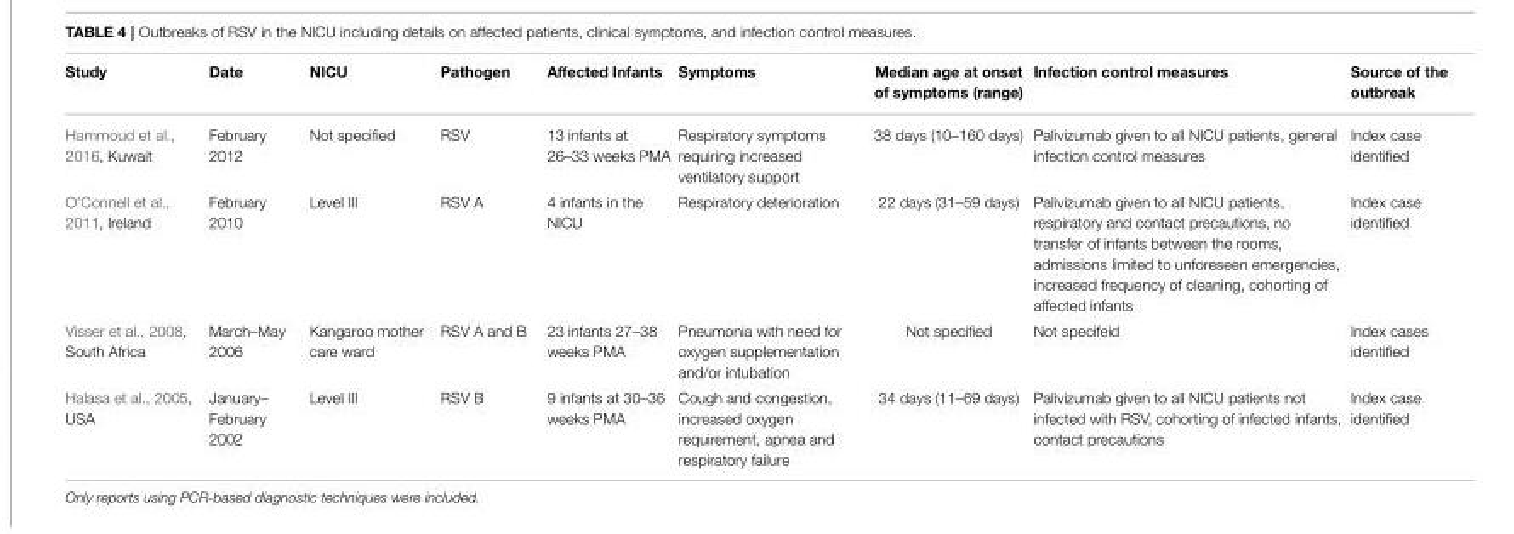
<table><thead><tr><td>Study</td><td>Date</td><td>NICU</td><td>Pathogen</td><td>Affected Infants</td><td>Symptoms</td><td>Median age at onset of symptoms (range)</td><td>Infection control measures</td><td>Source of the outbreak</td></tr></thead><tbody><tr><td>Hammoud et al., 2016, Kuwait</td><td>February 2012</td><td>Not specified</td><td>RSV</td><td>13 infants at 26–33 weeks PMA</td><td>Respiratory symptoms requiring increased ventilatory support</td><td>38 days (10–160 days)</td><td>Palivizumab given to all NICU patients, general infection control measures</td><td>Index case identified</td></tr><tr><td>O’Connell et al., 2011, Ireland</td><td>February 2010</td><td>Level III</td><td>RSV A</td><td>4 infants in the NICU</td><td>Respiratory deterioration</td><td>22 days (31–59 days)</td><td>Palivizumab given to all NICU patients, respiratory and contact precautions, no transfer of infants between the rooms, admissions limited to unforeseen emergencies, increased frequency of cleaning, cohorting of affected infants</td><td>Index case identified</td></tr><tr><td>Visser et al., 2008, South Africa</td><td>March–May 2006</td><td>Kangaroo mother care ward</td><td>RSV A and B</td><td>23 infants 27–38 weeks PMA</td><td>Pneumonia with need for oxygen supplementation and/or intubation</td><td>Not specified</td><td>Not specifeid</td><td>Index cases identified</td></tr><tr><td>Halasa et al., 2005, USA</td><td>January– February 2002</td><td>Level III</td><td>RSV B</td><td>9 infants at 30–36 weeks PMA</td><td>Cough and congestion, increased oxygen requirement, apnea and respiratory failure</td><td>34 days (11–69 days)</td><td>Palivizumab given to all NICU patients not infected with RSV, cohorting of infected infants, contact precautions</td><td>Index case identified</td></tr></tbody></table>